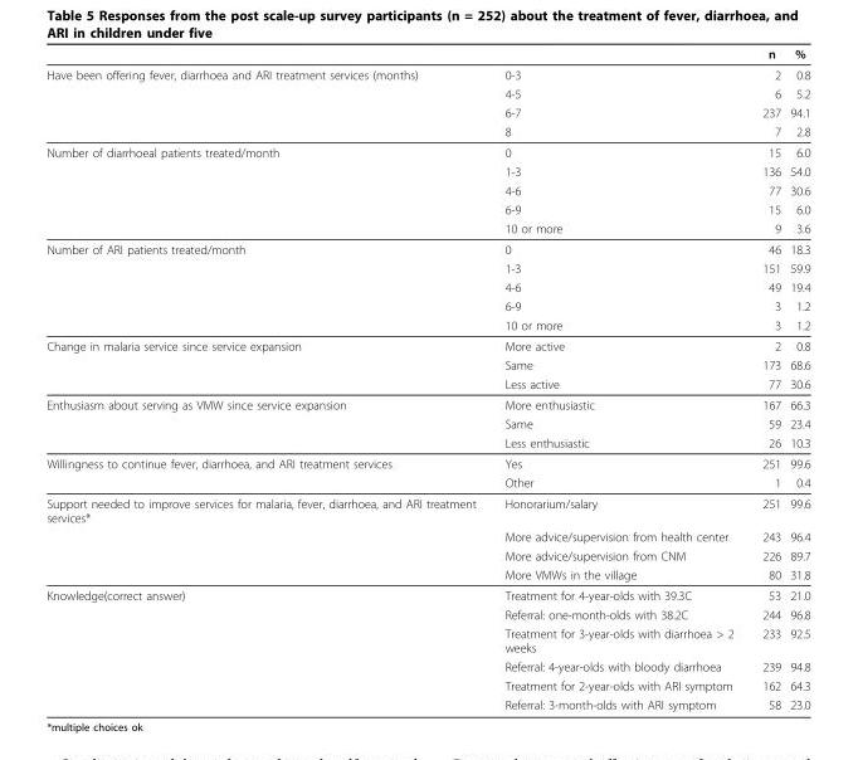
<table><thead><tr><td></td><td></td><td>n</td><td>%</td></tr></thead><tbody><tr><td rowspan="4">Have been offering fever, diarrhoea and ARI treatment services (months)</td><td>0-3</td><td>2</td><td>0.8</td></tr><tr><td>4-5</td><td>6</td><td>5.2</td></tr><tr><td>6-7</td><td>237</td><td>94.1</td></tr><tr><td>8</td><td>7</td><td>2.8</td></tr><tr><td rowspan="5">Number of diarrhoeal patients treated/month</td><td>0</td><td>15</td><td>6.0</td></tr><tr><td>1-3</td><td>136</td><td>54.0</td></tr><tr><td>4-6</td><td>77</td><td>30.6</td></tr><tr><td>6-9</td><td>15</td><td>6.0</td></tr><tr><td>10 or more</td><td>9</td><td>3.6</td></tr><tr><td rowspan="5">Number of ARI patients treated/month</td><td>0</td><td>46</td><td>18.3</td></tr><tr><td>1-3</td><td>151</td><td>59.9</td></tr><tr><td>4-6</td><td>49</td><td>19.4</td></tr><tr><td>6-9</td><td>3</td><td>1.2</td></tr><tr><td>10 or more</td><td>3</td><td>1.2</td></tr><tr><td rowspan="3">Change in malaria service since service expansion</td><td>More active</td><td>2</td><td>0.8</td></tr><tr><td>Same</td><td>173</td><td>68.6</td></tr><tr><td>Less active</td><td>77</td><td>30.6</td></tr><tr><td rowspan="3">Enthusiasm about serving as VMW since service expansion</td><td>More enthusiastic</td><td>167</td><td>66.3</td></tr><tr><td>Same</td><td>59</td><td>23.4</td></tr><tr><td>Less enthusiastic</td><td>26</td><td>10.3</td></tr><tr><td rowspan="2">Willingness to continue fever, diarrhoea, and ARI treatment services</td><td>Yes</td><td>251</td><td>99.6</td></tr><tr><td>Other</td><td>1</td><td>0.4</td></tr><tr><td rowspan="4">Support needed to improve services for malaria, fever, diarrhoea, and ARI treatment services*</td><td>Honorarium/salary</td><td>251</td><td>99.6</td></tr><tr><td>More advice/supervision from health center</td><td>243</td><td>96.4</td></tr><tr><td>More advice/supervision from CNM</td><td>226</td><td>89.7</td></tr><tr><td>More VMWs in the village</td><td>80</td><td>31.8</td></tr><tr><td rowspan="6">Knowledge(correct answer)</td><td>Treatment for 4-year-olds with 39.3C</td><td>53</td><td>21.0</td></tr><tr><td>Referral: one-month-olds with 38.2C</td><td>244</td><td>96.8</td></tr><tr><td>Treatment for 3-year-olds with diarrhoea &gt; 2 weeks</td><td>233</td><td>92.5</td></tr><tr><td>Referral: 4-year-olds with bloody diarrhoea</td><td>239</td><td>94.8</td></tr><tr><td>Treatment for 2-year-olds with ARI symptom</td><td>162</td><td>64.3</td></tr><tr><td>Referral: 3-month-olds with ARI symptom</td><td>58</td><td>23.0</td></tr></tbody></table>